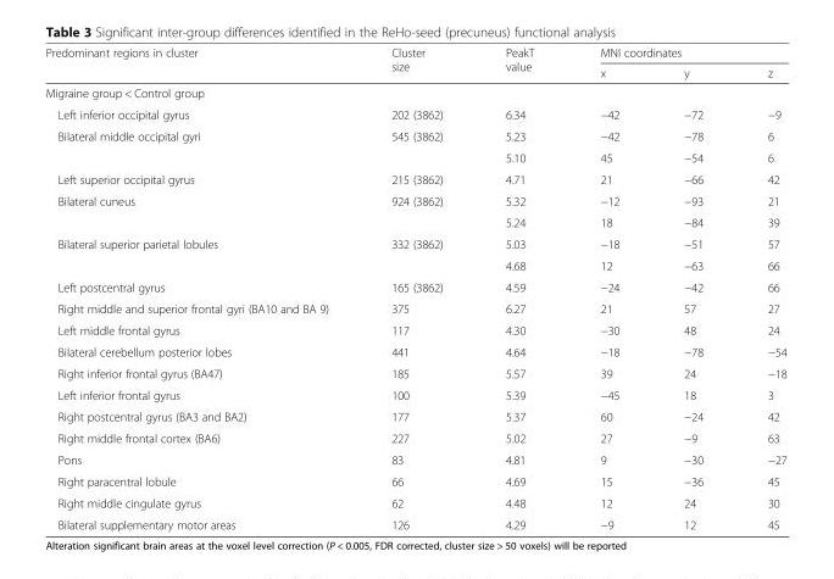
<table><thead><tr><td rowspan="2">Predominant regions in cluster</td><td rowspan="2">Cluster size</td><td rowspan="2">PeakT value</td><td colspan="3">MNI coordinates</td></tr><tr><td>x</td><td>y</td><td>z</td></tr></thead><tbody><tr><td colspan="6">Migraine group &lt; Control group</td></tr><tr><td>Left inferior occipital gyrus</td><td>202 (3862)</td><td>6.34</td><td>−42</td><td>−72</td><td>−9</td></tr><tr><td rowspan="2">Bilateral middle occipital gyri</td><td>545 (3862)</td><td>5.23</td><td>−42</td><td>−78</td><td>6</td></tr><tr><td></td><td>5.10</td><td>45</td><td>−54</td><td>6</td></tr><tr><td>Left superior occipital gyrus</td><td>215 (3862)</td><td>4.71</td><td>21</td><td>−66</td><td>42</td></tr><tr><td rowspan="2">Bilateral cuneus</td><td>924 (3862)</td><td>5.32</td><td>−12</td><td>−93</td><td>21</td></tr><tr><td></td><td>5.24</td><td>18</td><td>−84</td><td>39</td></tr><tr><td rowspan="2">Bilateral superior parietal lobules</td><td>332 (3862)</td><td>5.03</td><td>−18</td><td>−51</td><td>57</td></tr><tr><td></td><td>4.68</td><td>12</td><td>−63</td><td>66</td></tr><tr><td>Left postcentral gyrus</td><td>165 (3862)</td><td>4.59</td><td>−24</td><td>−42</td><td>66</td></tr><tr><td>Right middle and superior frontal gyri (BA10 and BA 9)</td><td>375</td><td>6.27</td><td>21</td><td>57</td><td>27</td></tr><tr><td>Left middle frontal gyrus</td><td>117</td><td>4.30</td><td>−30</td><td>48</td><td>24</td></tr><tr><td>Bilateral cerebellum posterior lobes</td><td>441</td><td>4.64</td><td>−18</td><td>−78</td><td>−54</td></tr><tr><td>Right inferior frontal gyrus (BA47)</td><td>185</td><td>5.57</td><td>39</td><td>24</td><td>−18</td></tr><tr><td>Left inferior frontal gyrus</td><td>100</td><td>5.39</td><td>−45</td><td>18</td><td>3</td></tr><tr><td>Right postcentral gyrus (BA3 and BA2)</td><td>177</td><td>5.37</td><td>60</td><td>−24</td><td>42</td></tr><tr><td>Right middle frontal cortex (BA6)</td><td>227</td><td>5.02</td><td>27</td><td>−9</td><td>63</td></tr><tr><td>Pons</td><td>83</td><td>4.81</td><td>9</td><td>−30</td><td>−27</td></tr><tr><td>Right paracentral lobule</td><td>66</td><td>4.69</td><td>15</td><td>−36</td><td>45</td></tr><tr><td>Right middle cingulate gyrus</td><td>62</td><td>4.48</td><td>12</td><td>24</td><td>30</td></tr><tr><td>Bilateral supplementary motor areas</td><td>126</td><td>4.29</td><td>−9</td><td>12</td><td>45</td></tr></tbody></table>